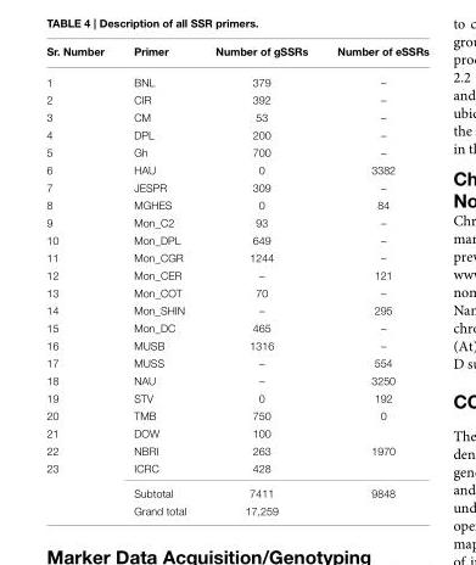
<table><thead><tr><td>Sr. Number</td><td>Primer</td><td>Number of gSSRs</td><td>Number of eSSRs</td></tr></thead><tbody><tr><td>1</td><td>BNL</td><td>379</td><td>–</td></tr><tr><td>2</td><td>CIR</td><td>392</td><td>–</td></tr><tr><td>3</td><td>CM</td><td>53</td><td>–</td></tr><tr><td>4</td><td>DPL</td><td>200</td><td>–</td></tr><tr><td>5</td><td>Gh</td><td>700</td><td>–</td></tr><tr><td>6</td><td>HAU</td><td>0</td><td>3382</td></tr><tr><td>7</td><td>JESPR</td><td>309</td><td>–</td></tr><tr><td>8</td><td>MGHES</td><td>0</td><td>84</td></tr><tr><td>9</td><td>Mon_C2</td><td>93</td><td>–</td></tr><tr><td>10</td><td>Mon_DPL</td><td>649</td><td>–</td></tr><tr><td>11</td><td>Mon_CGR</td><td>1244</td><td>–</td></tr><tr><td>12</td><td>Mon_CER</td><td>–</td><td>121</td></tr><tr><td>13</td><td>Mon_COT</td><td>70</td><td>–</td></tr><tr><td>14</td><td>Mon_SHIN</td><td>–</td><td>295</td></tr><tr><td>15</td><td>Mon_DC</td><td>465</td><td>–</td></tr><tr><td>16</td><td>MUSB</td><td>1316</td><td>–</td></tr><tr><td>17</td><td>MUSS</td><td>–</td><td>554</td></tr><tr><td>18</td><td>NAU</td><td>–</td><td>3250</td></tr><tr><td>19</td><td>STV</td><td>0</td><td>192</td></tr><tr><td>20</td><td>TMB</td><td>750</td><td>0</td></tr><tr><td>21</td><td>DOW</td><td>100</td><td></td></tr><tr><td>22</td><td>NBRI</td><td>263</td><td>1970</td></tr><tr><td rowspan="3">23</td><td>ICRC</td><td>428</td><td></td></tr><tr><td>Subtotal</td><td>7411</td><td>9848</td></tr><tr><td>Grand total</td><td>17,259</td><td></td></tr></tbody></table>